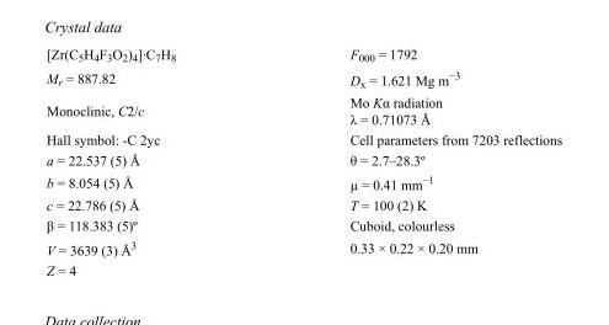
<table><tbody><tr><td>[Zr(C<sub>5</sub>H<sub>4</sub>F<sub>3</sub>O<sub>2</sub>)<sub>4</sub>]·C<sub>7</sub>H<sub>8</sub></td><td>F<sub>000</sub> = 1792</td></tr><tr><td>M<sub>r</sub> = 887.82</td><td>D<sub>x</sub> = 1.621 Mg m<sup>−3</sup></td></tr><tr><td>Monoclinic, C2/c</td><td>Mo Kα radiation λ = 0.71073 Å</td></tr><tr><td>Hall symbol: -C 2yc</td><td>Cell parameters from 7203 reflections</td></tr><tr><td>a = 22.537 (5) Å</td><td>θ = 2.7–28.3º</td></tr><tr><td>b = 8.054 (5) Å</td><td>µ = 0.41 mm<sup>−1</sup></td></tr><tr><td>c = 22.786 (5) Å</td><td>T = 100 (2) K</td></tr><tr><td>β = 118.383 (5)º</td><td>Cuboid, colourless</td></tr><tr><td>V = 3639 (3) Å<sup>3</sup></td><td>0.33 × 0.22 × 0.20 mm</td></tr><tr><td>Z = 4</td><td></td></tr></tbody></table>